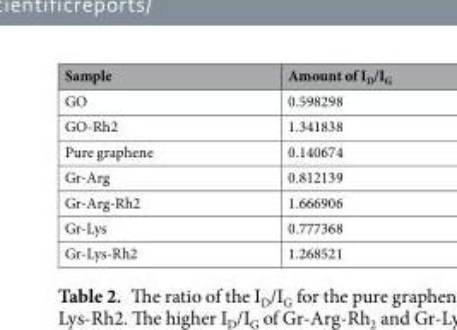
<table><thead><tr><td>Sample</td><td>Amount of I<sub>D</sub>/I<sub>G</sub></td></tr></thead><tbody><tr><td>GO</td><td>0.598298</td></tr><tr><td>GO-Rh2</td><td>1.341838</td></tr><tr><td>Pure graphene</td><td>0.140674</td></tr><tr><td>Gr-Arg</td><td>0.812139</td></tr><tr><td>Gr-Arg-Rh2</td><td>1.666906</td></tr><tr><td>Gr-Lys</td><td>0.777368</td></tr><tr><td>Gr-Lys-Rh2</td><td>1.268521</td></tr></tbody></table>